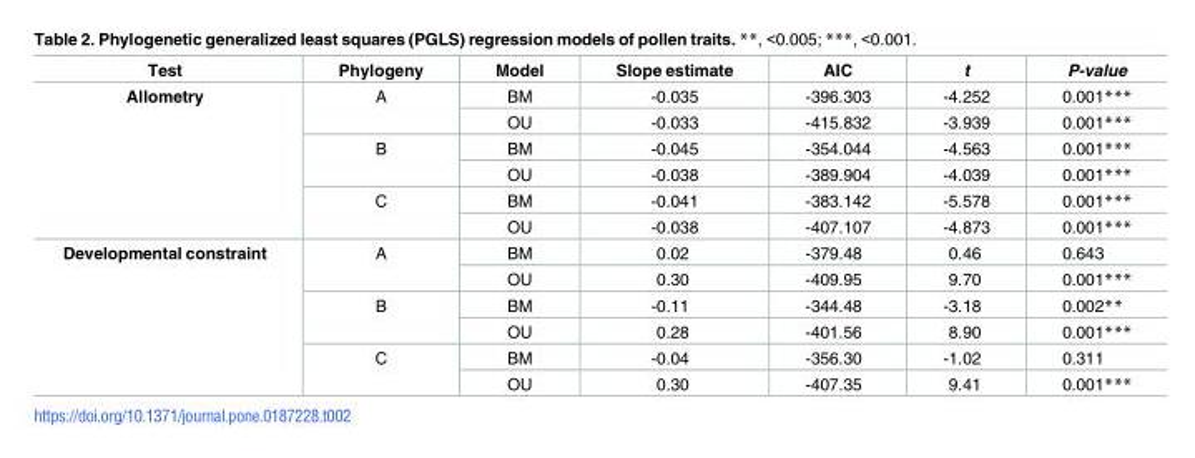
<table><thead><tr><td>Test</td><td>Phylogeny</td><td>Model</td><td>Slope estimate</td><td>AIC</td><td>t</td><td>P-value</td></tr></thead><tbody><tr><td rowspan="6">Allometry</td><td rowspan="2">A</td><td>BM</td><td>-0.035</td><td>-396.303</td><td>-4.252</td><td>0.001***</td></tr><tr><td>OU</td><td>-0.033</td><td>-415.832</td><td>-3.939</td><td>0.001***</td></tr><tr><td rowspan="2">B</td><td>BM</td><td>-0.045</td><td>-354.044</td><td>-4.563</td><td>0.001***</td></tr><tr><td>OU</td><td>-0.038</td><td>-389.904</td><td>-4.039</td><td>0.001***</td></tr><tr><td rowspan="2">C</td><td>BM</td><td>-0.041</td><td>-383.142</td><td>-5.578</td><td>0.001***</td></tr><tr><td>OU</td><td>-0.038</td><td>-407.107</td><td>-4.873</td><td>0.001***</td></tr><tr><td rowspan="6">Developmental constraint</td><td rowspan="2">A</td><td>BM</td><td>0.02</td><td>-379.48</td><td>0.46</td><td>0.643</td></tr><tr><td>OU</td><td>0.30</td><td>-409.95</td><td>9.70</td><td>0.001***</td></tr><tr><td rowspan="2">B</td><td>BM</td><td>-0.11</td><td>-344.48</td><td>-3.18</td><td>0.002**</td></tr><tr><td>OU</td><td>0.28</td><td>-401.56</td><td>8.90</td><td>0.001***</td></tr><tr><td rowspan="2">C</td><td>BM</td><td>-0.04</td><td>-356.30</td><td>-1.02</td><td>0.311</td></tr><tr><td>OU</td><td>0.30</td><td>-407.35</td><td>9.41</td><td>0.001***</td></tr></tbody></table>